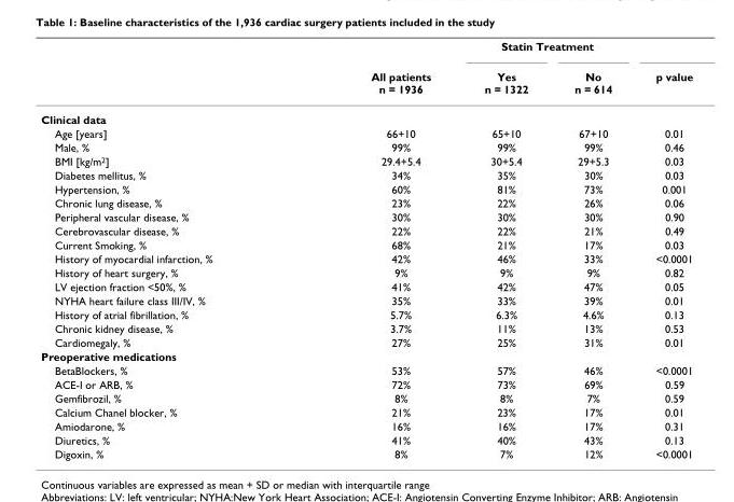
<table><thead><tr><td rowspan="2"></td><td rowspan="2">All patients n = 1936</td><td colspan="2">Statin Treatment</td><td rowspan="2">p value</td></tr><tr><td>Yes n = 1322</td><td>No n = 614</td></tr></thead><tbody><tr><td colspan="5">Clinical data</td></tr><tr><td>Age [years]</td><td>66+10</td><td>65+10</td><td>67+10</td><td>0.01</td></tr><tr><td>Male, %</td><td>99%</td><td>99%</td><td>99%</td><td>0.46</td></tr><tr><td>BMI [kg/m<sup>2</sup>]</td><td>29.4+5.4</td><td>30+5.4</td><td>29+5.3</td><td>0.03</td></tr><tr><td>Diabetes mellitus, %</td><td>34%</td><td>35%</td><td>30%</td><td>0.03</td></tr><tr><td>Hypertension, %</td><td>60%</td><td>81%</td><td>73%</td><td>0.001</td></tr><tr><td>Chronic lung disease, %</td><td>23%</td><td>22%</td><td>26%</td><td>0.06</td></tr><tr><td>Peripheral vascular disease, %</td><td>30%</td><td>30%</td><td>30%</td><td>0.90</td></tr><tr><td>Cerebrovascular disease, %</td><td>22%</td><td>22%</td><td>21%</td><td>0.49</td></tr><tr><td>Current Smoking, %</td><td>68%</td><td>21%</td><td>17%</td><td>0.03</td></tr><tr><td>History of myocardial infarction, %</td><td>42%</td><td>46%</td><td>33%</td><td>&lt;0.0001</td></tr><tr><td>History of heart surgery, %</td><td>9%</td><td>9%</td><td>9%</td><td>0.82</td></tr><tr><td>LV ejection fraction &lt;50%, %</td><td>41%</td><td>42%</td><td>47%</td><td>0.05</td></tr><tr><td>NYHA heart failure class III/IV, %</td><td>35%</td><td>33%</td><td>39%</td><td>0.01</td></tr><tr><td>History of atrial fibrillation, %</td><td>5.7%</td><td>6.3%</td><td>4.6%</td><td>0.13</td></tr><tr><td>Chronic kidney disease, %</td><td>3.7%</td><td>11%</td><td>13%</td><td>0.53</td></tr><tr><td>Cardiomegaly, %</td><td>27%</td><td>25%</td><td>31%</td><td>0.01</td></tr><tr><td colspan="5">Preoperative medications</td></tr><tr><td>BetaBlockers, %</td><td>53%</td><td>57%</td><td>46%</td><td>&lt;0.0001</td></tr><tr><td>ACE-I or ARB, %</td><td>72%</td><td>73%</td><td>69%</td><td>0.59</td></tr><tr><td>Gemfibrozil, %</td><td>8%</td><td>8%</td><td>7%</td><td>0.59</td></tr><tr><td>Calcium Chanel blocker, %</td><td>21%</td><td>23%</td><td>17%</td><td>0.01</td></tr><tr><td>Amiodarone, %</td><td>16%</td><td>16%</td><td>17%</td><td>0.31</td></tr><tr><td>Diuretics, %</td><td>41%</td><td>40%</td><td>43%</td><td>0.13</td></tr><tr><td>Digoxin, %</td><td>8%</td><td>7%</td><td>12%</td><td>&lt;0.0001</td></tr></tbody></table>